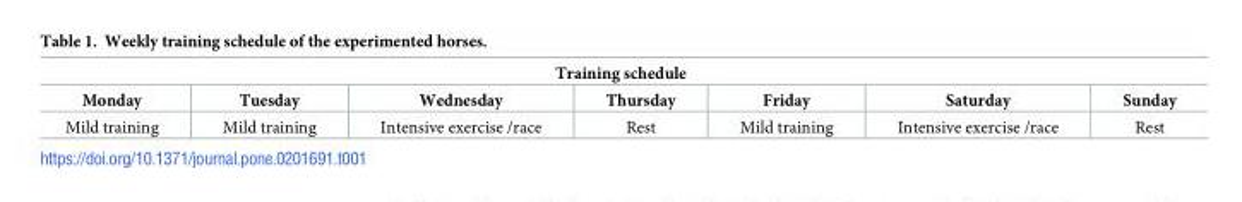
<table><thead><tr><td colspan="7">Training schedule</td></tr><tr><td>Monday</td><td>Tuesday</td><td>Wednesday</td><td>Thursday</td><td>Friday</td><td>Saturday</td><td>Sunday</td></tr></thead><tbody><tr><td>Mild training</td><td>Mild training</td><td>Intensive exercise /race</td><td>Rest</td><td>Mild training</td><td>Intensive exercise /race</td><td>Rest</td></tr></tbody></table>